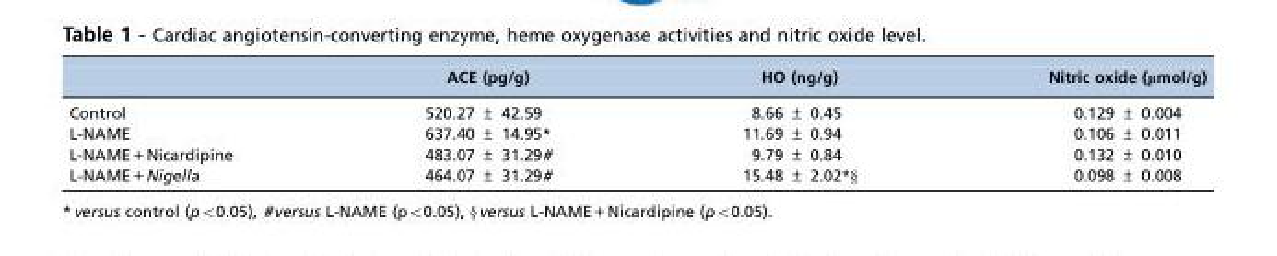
<table><thead><tr><td></td><td>ACE (pg/g)</td><td>HO (ng/g)</td><td>Nitric oxide (µmol/g)</td></tr></thead><tbody><tr><td>Control</td><td>520.27 ± 42.59</td><td>8.66 ± 0.45</td><td>0.129 ± 0.004</td></tr><tr><td>L-NAME</td><td>637.40 ± 14.95*</td><td>11.69 ± 0.94</td><td>0.106 ± 0.011</td></tr><tr><td>L-NAME+Nicardipine</td><td>483.07 ± 31.29#</td><td>9.79 ± 0.84</td><td>0.132 ± 0.010</td></tr><tr><td>L-NAME+Nigella</td><td>464.07 ± 31.29#</td><td>15.48 ± 2.02*§</td><td>0.098 ± 0.008</td></tr></tbody></table>